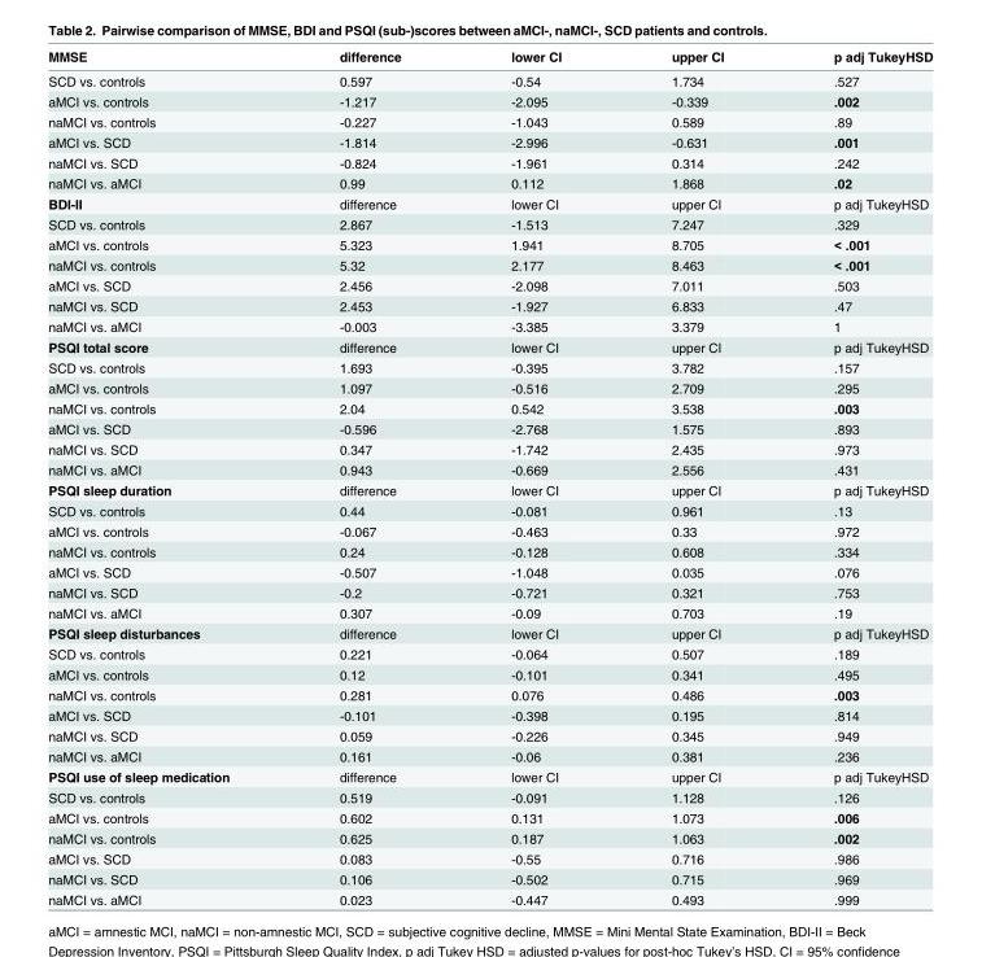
<table><thead><tr><td>MMSE</td><td>difference</td><td>lower CI</td><td>upper CI</td><td>p adj TukeyHSD</td></tr></thead><tbody><tr><td>SCD vs. controls</td><td>0.597</td><td>-0.54</td><td>1.734</td><td>.527</td></tr><tr><td>aMCI vs. controls</td><td>-1.217</td><td>-2.095</td><td>-0.339</td><td>.002</td></tr><tr><td>naMCI vs. controls</td><td>-0.227</td><td>-1.043</td><td>0.589</td><td>.89</td></tr><tr><td>aMCI vs. SCD</td><td>-1.814</td><td>-2.996</td><td>-0.631</td><td>.001</td></tr><tr><td>naMCI vs. SCD</td><td>-0.824</td><td>-1.961</td><td>0.314</td><td>.242</td></tr><tr><td>naMCI vs. aMCI</td><td>0.99</td><td>0.112</td><td>1.868</td><td>.02</td></tr><tr><td>BDI-II</td><td>difference</td><td>lower CI</td><td>upper CI</td><td>p adj TukeyHSD</td></tr><tr><td>SCD vs. controls</td><td>2.867</td><td>-1.513</td><td>7.247</td><td>.329</td></tr><tr><td>aMCI vs. controls</td><td>5.323</td><td>1.941</td><td>8.705</td><td>&lt; .001</td></tr><tr><td>naMCI vs. controls</td><td>5.32</td><td>2.177</td><td>8.463</td><td>&lt; .001</td></tr><tr><td>aMCI vs. SCD</td><td>2.456</td><td>-2.098</td><td>7.011</td><td>.503</td></tr><tr><td>naMCI vs. SCD</td><td>2.453</td><td>-1.927</td><td>6.833</td><td>.47</td></tr><tr><td>naMCI vs. aMCI</td><td>-0.003</td><td>-3.385</td><td>3.379</td><td>1</td></tr><tr><td>PSQI total score</td><td>difference</td><td>lower CI</td><td>upper CI</td><td>p adj TukeyHSD</td></tr><tr><td>SCD vs. controls</td><td>1.693</td><td>-0.395</td><td>3.782</td><td>.157</td></tr><tr><td>aMCI vs. controls</td><td>1.097</td><td>-0.516</td><td>2.709</td><td>.295</td></tr><tr><td>naMCI vs. controls</td><td>2.04</td><td>0.542</td><td>3.538</td><td>.003</td></tr><tr><td>aMCI vs. SCD</td><td>-0.596</td><td>-2.768</td><td>1.575</td><td>.893</td></tr><tr><td>naMCI vs. SCD</td><td>0.347</td><td>-1.742</td><td>2.435</td><td>.973</td></tr><tr><td>naMCI vs. aMCI</td><td>0.943</td><td>-0.669</td><td>2.556</td><td>.431</td></tr><tr><td>PSQI sleep duration</td><td>difference</td><td>lower CI</td><td>upper CI</td><td>p adj TukeyHSD</td></tr><tr><td>SCD vs. controls</td><td>0.44</td><td>-0.081</td><td>0.961</td><td>.13</td></tr><tr><td>aMCI vs. controls</td><td>-0.067</td><td>-0.463</td><td>0.33</td><td>.972</td></tr><tr><td>naMCI vs. controls</td><td>0.24</td><td>-0.128</td><td>0.608</td><td>.334</td></tr><tr><td>aMCI vs. SCD</td><td>-0.507</td><td>-1.048</td><td>0.035</td><td>.076</td></tr><tr><td>naMCI vs. SCD</td><td>-0.2</td><td>-0.721</td><td>0.321</td><td>.753</td></tr><tr><td>naMCI vs. aMCI</td><td>0.307</td><td>-0.09</td><td>0.703</td><td>.19</td></tr><tr><td>PSQI sleep disturbances</td><td>difference</td><td>lower CI</td><td>upper CI</td><td>p adj TukeyHSD</td></tr><tr><td>SCD vs. controls</td><td>0.221</td><td>-0.064</td><td>0.507</td><td>.189</td></tr><tr><td>aMCI vs. controls</td><td>0.12</td><td>-0.101</td><td>0.341</td><td>.495</td></tr><tr><td>naMCI vs. controls</td><td>0.281</td><td>0.076</td><td>0.486</td><td>.003</td></tr><tr><td>aMCI vs. SCD</td><td>-0.101</td><td>-0.398</td><td>0.195</td><td>.814</td></tr><tr><td>naMCI vs. SCD</td><td>0.059</td><td>-0.226</td><td>0.345</td><td>.949</td></tr><tr><td>naMCI vs. aMCI</td><td>0.161</td><td>-0.06</td><td>0.381</td><td>.236</td></tr><tr><td>PSQI use of sleep medication</td><td>difference</td><td>lower CI</td><td>upper CI</td><td>p adj TukeyHSD</td></tr><tr><td>SCD vs. controls</td><td>0.519</td><td>-0.091</td><td>1.128</td><td>.126</td></tr><tr><td>aMCI vs. controls</td><td>0.602</td><td>0.131</td><td>1.073</td><td>.006</td></tr><tr><td>naMCI vs. controls</td><td>0.625</td><td>0.187</td><td>1.063</td><td>.002</td></tr><tr><td>aMCI vs. SCD</td><td>0.083</td><td>-0.55</td><td>0.716</td><td>.986</td></tr><tr><td>naMCI vs. SCD</td><td>0.106</td><td>-0.502</td><td>0.715</td><td>.969</td></tr><tr><td>naMCI vs. aMCI</td><td>0.023</td><td>-0.447</td><td>0.493</td><td>.999</td></tr></tbody></table>